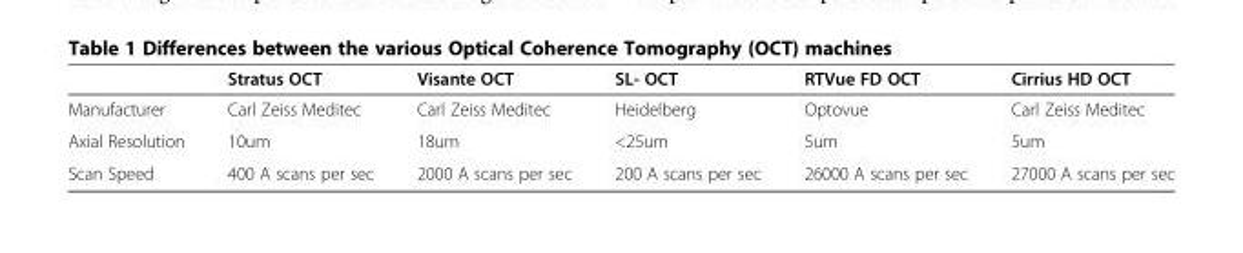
<table><thead><tr><td></td><td>Stratus OCT</td><td>Visante OCT</td><td>SL- OCT</td><td>RTVue FD OCT</td><td>Cirrius HD OCT</td></tr></thead><tbody><tr><td>Manufacturer</td><td>Carl Zeiss Meditec</td><td>Carl Zeiss Meditec</td><td>Heidelberg</td><td>Optovue</td><td>Carl Zeiss Meditec</td></tr><tr><td>Axial Resolution</td><td>10um</td><td>18um</td><td>&lt;25um</td><td>5um</td><td>5um</td></tr><tr><td>Scan Speed</td><td>400 A scans per sec</td><td>2000 A scans per sec</td><td>200 A scans per sec</td><td>26000 A scans per sec</td><td>27000 A scans per sec</td></tr></tbody></table>